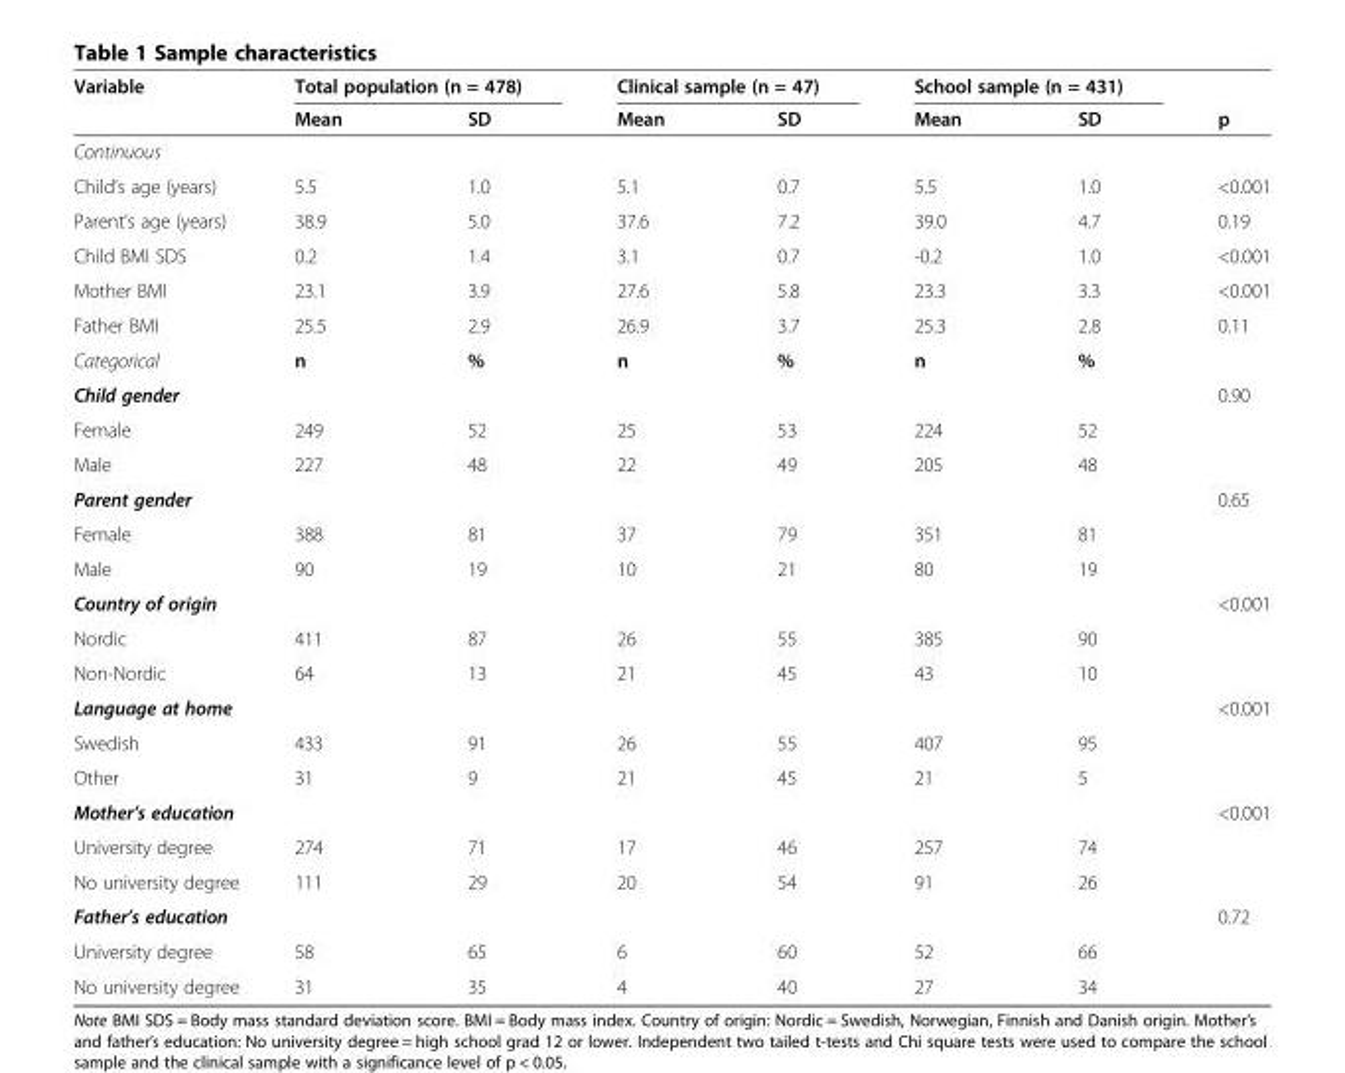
<table><thead><tr><td rowspan="2">Variable</td><td colspan="2">Total population (n = 478)</td><td colspan="2">Clinical sample (n = 47)</td><td colspan="2">School sample (n = 431)</td><td rowspan="2">p</td></tr><tr><td>Mean</td><td>SD</td><td>Mean</td><td>SD</td><td>Mean</td><td>SD</td></tr></thead><tbody><tr><td colspan="8">Continuous</td></tr><tr><td>Child’s age (years)</td><td>5.5</td><td>1.0</td><td>5.1</td><td>0.7</td><td>5.5</td><td>1.0</td><td>&lt;0.001</td></tr><tr><td>Parent’s age (years)</td><td>38.9</td><td>5.0</td><td>37.6</td><td>7.2</td><td>39.0</td><td>4.7</td><td>0.19</td></tr><tr><td>Child BMI SDS</td><td>0.2</td><td>1.4</td><td>3.1</td><td>0.7</td><td>-0.2</td><td>1.0</td><td>&lt;0.001</td></tr><tr><td>Mother BMI</td><td>23.1</td><td>3.9</td><td>27.6</td><td>5.8</td><td>23.3</td><td>3.3</td><td>&lt;0.001</td></tr><tr><td>Father BMI</td><td>25.5</td><td>2.9</td><td>26.9</td><td>3.7</td><td>25.3</td><td>2.8</td><td>0.11</td></tr><tr><td>Categorical</td><td>n</td><td>%</td><td>n</td><td>%</td><td>n</td><td>%</td><td></td></tr><tr><td>Child gender</td><td></td><td></td><td></td><td></td><td></td><td></td><td>0.90</td></tr><tr><td>Female</td><td>249</td><td>52</td><td>25</td><td>53</td><td>224</td><td>52</td><td></td></tr><tr><td>Male</td><td>227</td><td>48</td><td>22</td><td>49</td><td>205</td><td>48</td><td></td></tr><tr><td>Parent gender</td><td></td><td></td><td></td><td></td><td></td><td></td><td>0.65</td></tr><tr><td>Female</td><td>388</td><td>81</td><td>37</td><td>79</td><td>351</td><td>81</td><td></td></tr><tr><td>Male</td><td>90</td><td>19</td><td>10</td><td>21</td><td>80</td><td>19</td><td></td></tr><tr><td>Country of origin</td><td></td><td></td><td></td><td></td><td></td><td></td><td>&lt;0.001</td></tr><tr><td>Nordic</td><td>411</td><td>87</td><td>26</td><td>55</td><td>385</td><td>90</td><td></td></tr><tr><td>Non-Nordic</td><td>64</td><td>13</td><td>21</td><td>45</td><td>43</td><td>10</td><td></td></tr><tr><td>Language at home</td><td></td><td></td><td></td><td></td><td></td><td></td><td>&lt;0.001</td></tr><tr><td>Swedish</td><td>433</td><td>91</td><td>26</td><td>55</td><td>407</td><td>95</td><td></td></tr><tr><td>Other</td><td>31</td><td>9</td><td>21</td><td>45</td><td>21</td><td>5</td><td></td></tr><tr><td>Mother’s education</td><td></td><td></td><td></td><td></td><td></td><td></td><td>&lt;0.001</td></tr><tr><td>University degree</td><td>274</td><td>71</td><td>17</td><td>46</td><td>257</td><td>74</td><td></td></tr><tr><td>No university degree</td><td>111</td><td>29</td><td>20</td><td>54</td><td>91</td><td>26</td><td></td></tr><tr><td>Father’s education</td><td></td><td></td><td></td><td></td><td></td><td></td><td>0.72</td></tr><tr><td>University degree</td><td>58</td><td>65</td><td>6</td><td>60</td><td>52</td><td>66</td><td></td></tr><tr><td>No university degree</td><td>31</td><td>35</td><td>4</td><td>40</td><td>27</td><td>34</td><td></td></tr></tbody></table>